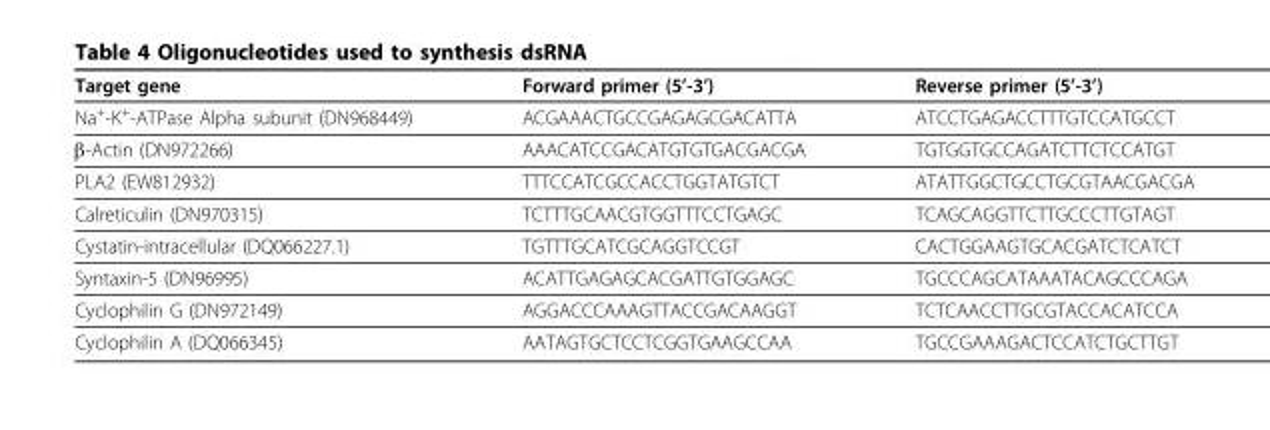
<table><thead><tr><td>Target gene</td><td>Forward primer (5’-3’)</td><td>Reverse primer (5’-3’)</td></tr></thead><tbody><tr><td>Na<sup>+</sup>-K<sup>+</sup>-ATPase Alpha subunit (DN968449)</td><td>ACGAAACTGCCGAGAGCGACATTA</td><td>ATCCTGAGACCTTTGTCCATGCCT</td></tr><tr><td>β-Actin (DN972266)</td><td>AAACATCCGACATGTGTGACGACGA</td><td>TGTGGTGCCAGATCTTCTCCATGT</td></tr><tr><td>PLA2 (EW812932)</td><td>TTTCCATCGCCACCTGGTATGTCT</td><td>ATATTGGCTGCCTGCGTAACGACGA</td></tr><tr><td>Calreticulin (DN970315)</td><td>TCTTTGCAACGTGGTTTCCTGAGC</td><td>TCAGCAGGTTCTTGCCCTTGTAGT</td></tr><tr><td>Cystatin-intracellular (DQ066227.1)</td><td>TGTTTGCATCGCAGGTCCGT</td><td>CACTGGAAGTGCACGATCTCATCT</td></tr><tr><td>Syntaxin-5 (DN96995)</td><td>ACATTGAGAGCACGATTGTGGAGC</td><td>TGCCCAGCATAAATACAGCCCAGA</td></tr><tr><td>Cyclophilin G (DN972149)</td><td>AGGACCCAAAGTTACCGACAAGGT</td><td>TCTCAACCTTGCGTACCACATCCA</td></tr><tr><td>Cyclophilin A (DQ066345)</td><td>AATAGTGCTCCTCGGTGAAGCCAA</td><td>TGCCGAAAGACTCCATCTGCTTGT</td></tr></tbody></table>